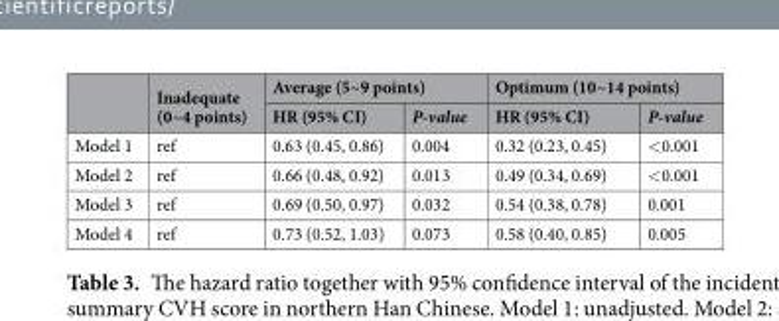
<table><thead><tr><td rowspan="2"></td><td rowspan="2">Inadequate (0~4 points)</td><td colspan="2">Average (5~9 points)</td><td colspan="2">Optimum (10~14 points)</td></tr><tr><td>HR (95% CI)</td><td>P-value</td><td>HR (95% CI)</td><td>P-value</td></tr></thead><tbody><tr><td>Model 1</td><td>ref</td><td>0.63 (0.45, 0.86)</td><td>0.004</td><td>0.32 (0.23, 0.45)</td><td>&lt;0.001</td></tr><tr><td>Model 2</td><td>ref</td><td>0.66 (0.48, 0.92)</td><td>0.013</td><td>0.49 (0.34, 0.69)</td><td>&lt;0.001</td></tr><tr><td>Model 3</td><td>ref</td><td>0.69 (0.50, 0.97)</td><td>0.032</td><td>0.54 (0.38, 0.78)</td><td>0.001</td></tr><tr><td>Model 4</td><td>ref</td><td>0.73 (0.52, 1.03)</td><td>0.073</td><td>0.58 (0.40, 0.85)</td><td>0.005</td></tr></tbody></table>